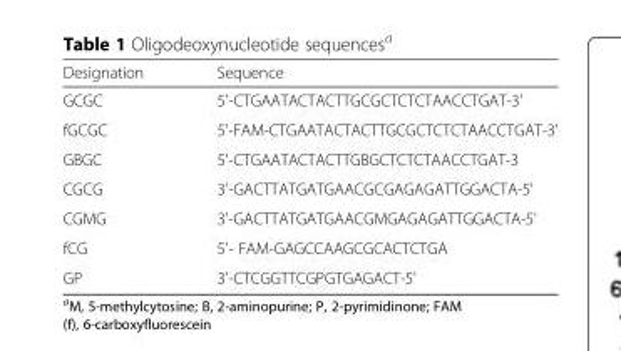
<table><thead><tr><td>Designation</td><td>Sequence</td></tr></thead><tbody><tr><td>GCGC</td><td>5&#x27;-CTGAATACTACTTGCGCTCTCTAACCTGAT-3&#x27;</td></tr><tr><td>fGCGC</td><td>5&#x27;-FAM-CTGAATACTACTTGCGCTCTCTAACCTGAT-3&#x27;</td></tr><tr><td>GBGC</td><td>5&#x27;-CTGAATACTACTTGBGCTCTCTAACCTGAT-3</td></tr><tr><td>CGCG</td><td>3&#x27;-GACTTATGATGAACGCGAGAGATTGGACTA-5&#x27;</td></tr><tr><td>CGMG</td><td>3&#x27;-GACTTATGATGAACGMGAGAGATTGGACTA-5&#x27;</td></tr><tr><td>fCG</td><td>5&#x27;- FAM-GAGCCAAGCGCACTCTGA</td></tr><tr><td>GP</td><td>3&#x27;-CTCGGTTCGPGTGAGACT-5&#x27;</td></tr></tbody></table>